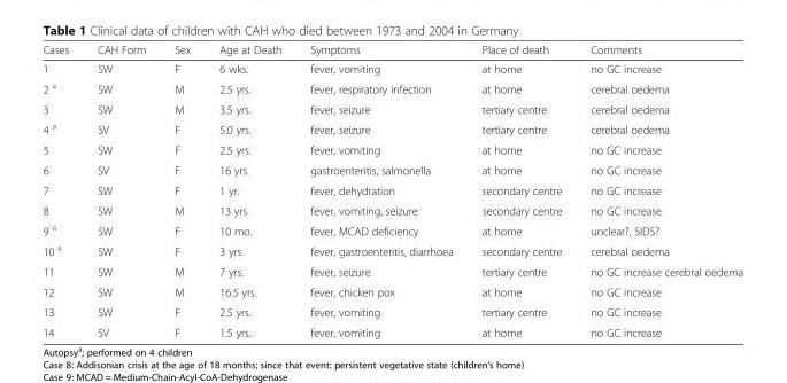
<table><thead><tr><td>Cases</td><td>CAH Form</td><td>Sex</td><td>Age at Death</td><td>Symptoms</td><td>Place of death</td><td>Comments</td></tr></thead><tbody><tr><td>1</td><td>SW</td><td>F</td><td>6 wks.</td><td>fever, vomiting</td><td>at home</td><td>no GC increase</td></tr><tr><td>2 <sup>a</sup></td><td>SW</td><td>M</td><td>2.5 yrs.</td><td>fever, respiratory infection</td><td>at home</td><td>cerebral oedema</td></tr><tr><td>3</td><td>SW</td><td>M</td><td>3.5 yrs.</td><td>fever, seizure</td><td>tertiary centre</td><td>cerebral oedema</td></tr><tr><td>4 <sup>a</sup></td><td>SV</td><td>F</td><td>5.0 yrs.</td><td>fever, seizure</td><td>tertiary centre</td><td>cerebral oedema</td></tr><tr><td>5</td><td>SW</td><td>F</td><td>2.5 yrs.</td><td>fever, vomiting</td><td>at home</td><td>no GC increase</td></tr><tr><td>6</td><td>SV</td><td>F</td><td>16 yrs.</td><td>gastroenteritis, salmonella</td><td>at home</td><td>no GC increase</td></tr><tr><td>7</td><td>SW</td><td>F</td><td>1 yr.</td><td>fever, dehydration</td><td>secondary centre</td><td>no GC increase</td></tr><tr><td>8</td><td>SW</td><td>M</td><td>13 yrs.</td><td>fever, vomiting, seizure</td><td>secondary centre</td><td>no GC increase</td></tr><tr><td>9 <sup>a</sup></td><td>SW</td><td>F</td><td>10 mo.</td><td>fever, MCAD deficiency</td><td>at home</td><td>unclear?, SIDS?</td></tr><tr><td>10 <sup>a</sup></td><td>SW</td><td>F</td><td>3 yrs.</td><td>fever, gastroenteritis, diarrhoea</td><td>secondary centre</td><td>cerebral oedema</td></tr><tr><td>11</td><td>SW</td><td>M</td><td>7 yrs.</td><td>fever, seizure</td><td>tertiary centre</td><td>no GC increase cerebral oedema</td></tr><tr><td>12</td><td>SW</td><td>M</td><td>16.5 yrs.</td><td>fever, chicken pox</td><td>at home</td><td>no GC increase</td></tr><tr><td>13</td><td>SW</td><td>F</td><td>2.5 yrs.</td><td>fever, vomiting</td><td>tertiary centre</td><td>no GC increase</td></tr><tr><td>14</td><td>SV</td><td>F</td><td>1.5 yrs.</td><td>fever, vomiting</td><td>at home</td><td>no GC increase</td></tr></tbody></table>